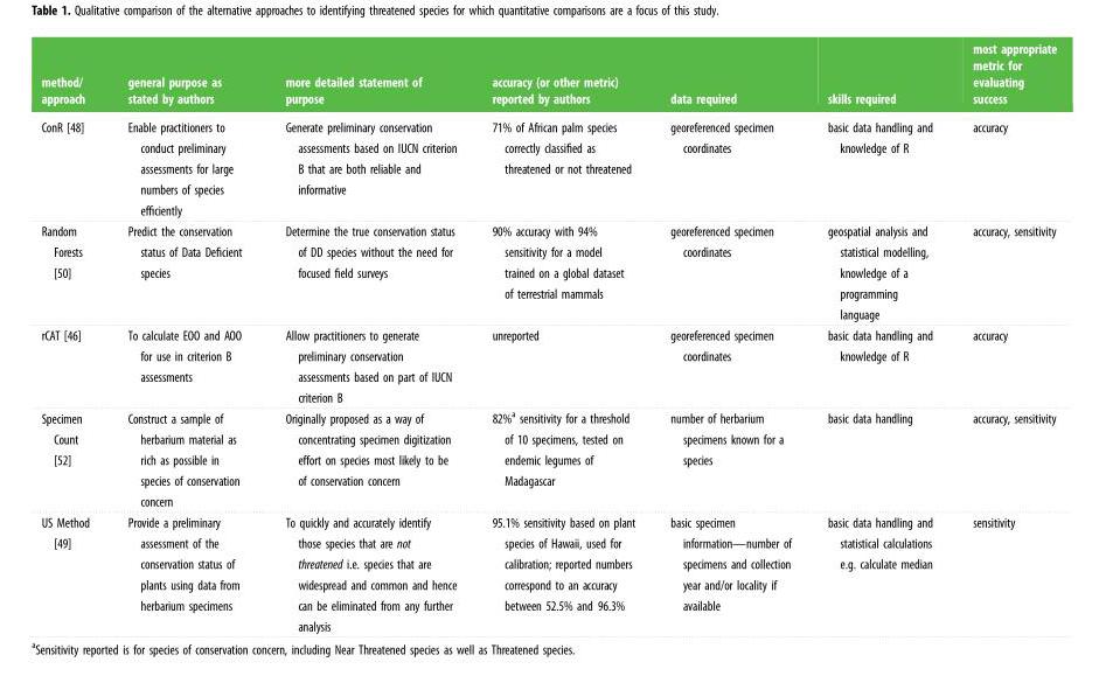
<table><thead><tr><td>method/ approach</td><td>general purpose as stated by authors</td><td>more detailed statement of purpose</td><td>accuracy (or other metric) reported by authors</td><td>data required</td><td>skills required</td><td>most appropriate metric for evaluating success</td></tr></thead><tbody><tr><td>ConR [48]</td><td>Enable practitioners to conduct preliminary assessments for large numbers of species efficiently</td><td>Generate preliminary conservation assessments based on IUCN criterion B that are both reliable and informative</td><td>71% of African palm species correctly classified as threatened or not threatened</td><td>georeferenced specimen coordinates</td><td>basic data handling and knowledge of R</td><td>accuracy</td></tr><tr><td>Random Forests [50]</td><td>Predict the conservation status of Data Deficient species</td><td>Determine the true conservation status of DD species without the need for focused field surveys</td><td>90% accuracy with 94% sensitivity for a model trained on a global dataset of terrestrial mammals</td><td>georeferenced specimen coordinates</td><td>geospatial analysis and statistical modelling, knowledge of a programming language</td><td>accuracy, sensitivity</td></tr><tr><td>rCAT [46]</td><td>To calculate EOO and AOO for use in criterion B assessments</td><td>Allow practitioners to generate preliminary conservation assessments based on part of IUCN criterion B</td><td>unreported</td><td>georeferenced specimen coordinates</td><td>basic data handling and knowledge of R</td><td>accuracy</td></tr><tr><td>Specimen Count [52]</td><td>Construct a sample of herbarium material as rich as possible in species of conservation concern</td><td>Originally proposed as a way of concentrating specimen digitization effort on species most likely to be of conservation concern</td><td>82%<sup>a</sup> sensitivity for a threshold of 10 specimens, tested on endemic legumes of Madagascar</td><td>number of herbarium specimens known for a species</td><td>basic data handling</td><td>accuracy, sensitivity</td></tr><tr><td>US Method [49]</td><td>Provide a preliminary assessment of the conservation status of plants using data from herbarium specimens</td><td>To quickly and accurately identify those species that are not threatened i.e. species that are widespread and common and hence can be eliminated from any further analysis</td><td>95.1% sensitivity based on plant species of Hawaii, used for calibration; reported numbers correspond to an accuracy between 52.5% and 96.3%</td><td>basic specimen information—number of specimens and collection year and/or locality if available</td><td>basic data handling and statistical calculations e.g. calculate median</td><td>sensitivity</td></tr></tbody></table>